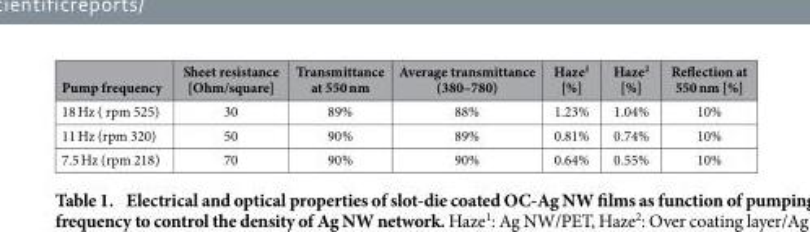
<table><thead><tr><td>Pump frequency</td><td>Sheet resistance [Ohm/square]</td><td>Transmittance at 550 nm</td><td>Average transmittance (380–780)</td><td>Haze<sup>1</sup> [%]</td><td>Haze<sup>2</sup> [%]</td><td>Reflection at 550 nm [%]</td></tr></thead><tbody><tr><td>18 Hz ( rpm 525)</td><td>30</td><td>89%</td><td>88%</td><td>1.23%</td><td>1.04%</td><td>10%</td></tr><tr><td>11 Hz (rpm 320)</td><td>50</td><td>90%</td><td>89%</td><td>0.81%</td><td>0.74%</td><td>10%</td></tr><tr><td>7.5 Hz (rpm 218)</td><td>70</td><td>90%</td><td>90%</td><td>0.64%</td><td>0.55%</td><td>10%</td></tr></tbody></table>